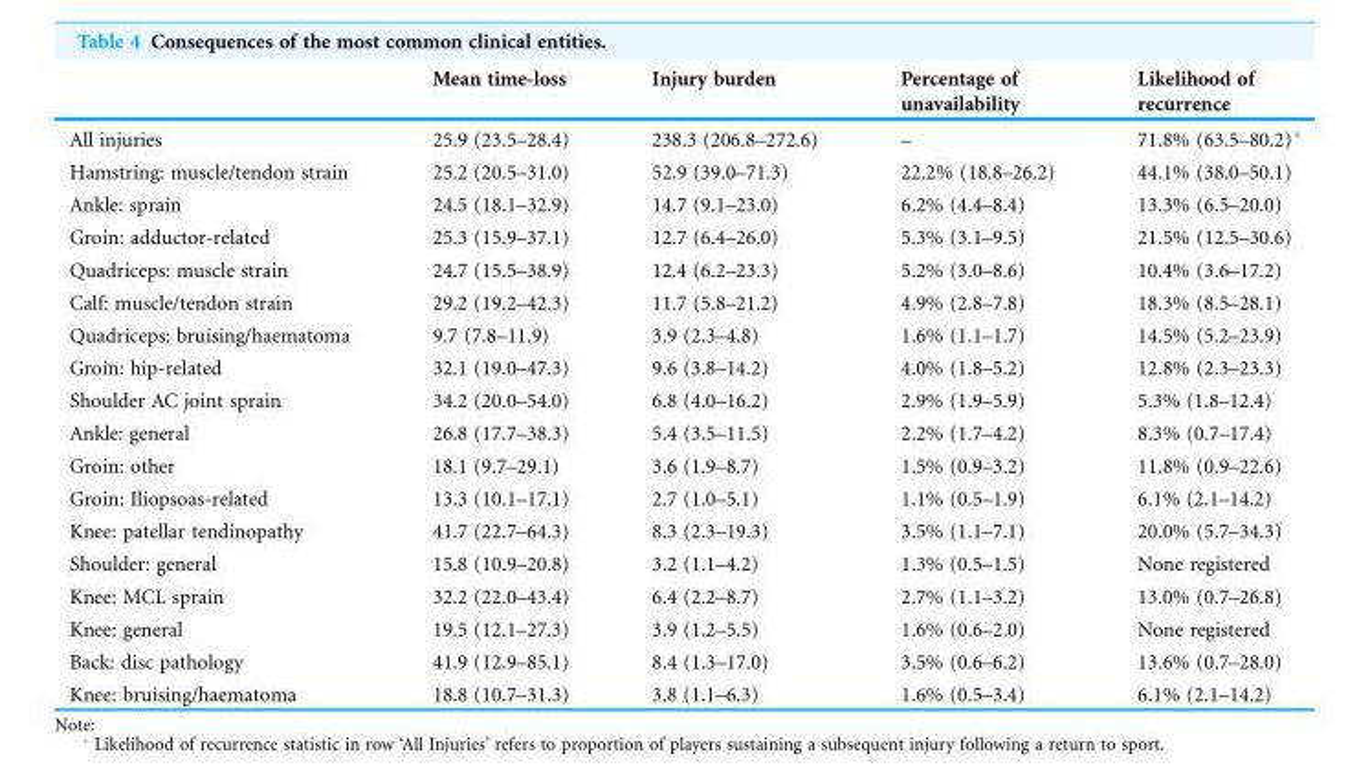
<table><thead><tr><td></td><td>Mean time-loss</td><td>Injury burden</td><td>Percentage of unavailability</td><td>Likelihood of recurrence</td></tr></thead><tbody><tr><td>All injuries</td><td>25.9 (23.5–28.4)</td><td>238.3 (206.8–272.6)</td><td>–</td><td>71.8% (63.5–80.2)*</td></tr><tr><td>Hamstring: muscle/tendon strain</td><td>25.2 (20.5–31.0)</td><td>52.9 (39.0–71.3)</td><td>22.2% (18.8–26.2)</td><td>44.1% (38.0–50.1)</td></tr><tr><td>Ankle: sprain</td><td>24.5 (18.1–32.9)</td><td>14.7 (9.1–23.0)</td><td>6.2% (4.4–8.4)</td><td>13.3% (6.5–20.0)</td></tr><tr><td>Groin: adductor-related</td><td>25.3 (15.9–37.1)</td><td>12.7 (6.4–26.0)</td><td>5.3% (3.1–9.5)</td><td>21.5% (12.5–30.6)</td></tr><tr><td>Quadriceps: muscle strain</td><td>24.7 (15.5–38.9)</td><td>12.4 (6.2–23.3)</td><td>5.2% (3.0–8.6)</td><td>10.4% (3.6–17.2)</td></tr><tr><td>Calf: muscle/tendon strain</td><td>29.2 (19.2–42.3)</td><td>11.7 (5.8–21.2)</td><td>4.9% (2.8–7.8)</td><td>18.3% (8.5–28.1)</td></tr><tr><td>Quadriceps: bruising/haematoma</td><td>9.7 (7.8–11.9)</td><td>3.9 (2.3–4.8)</td><td>1.6% (1.1–1.7)</td><td>14.5% (5.2–23.9)</td></tr><tr><td>Groin: hip-related</td><td>32.1 (19.0–47.3)</td><td>9.6 (3.8–14.2)</td><td>4.0% (1.8–5.2)</td><td>12.8% (2.3–23.3)</td></tr><tr><td>Shoulder AC joint sprain</td><td>34.2 (20.0–54.0)</td><td>6.8 (4.0–16.2)</td><td>2.9% (1.9–5.9)</td><td>5.3% (1.8–12.4)</td></tr><tr><td>Ankle: general</td><td>26.8 (17.7–38.3)</td><td>5.4 (3.5–11.5)</td><td>2.2% (1.7–4.2)</td><td>8.3% (0.7–17.4)</td></tr><tr><td>Groin: other</td><td>18.1 (9.7–29.1)</td><td>3.6 (1.9–8.7)</td><td>1.5% (0.9–3.2)</td><td>11.8% (0.9–22.6)</td></tr><tr><td>Groin: Iliopsoas-related</td><td>13.3 (10.1–17.1)</td><td>2.7 (1.0–5.1)</td><td>1.1% (0.5–1.9)</td><td>6.1% (2.1–14.2)</td></tr><tr><td>Knee: patellar tendinopathy</td><td>41.7 (22.7–64.3)</td><td>8.3 (2.3–19.3)</td><td>3.5% (1.1–7.1)</td><td>20.0% (5.7–34.3)</td></tr><tr><td>Shoulder: general</td><td>15.8 (10.9–20.8)</td><td>3.2 (1.1–4.2)</td><td>1.3% (0.5–1.5)</td><td>None registered</td></tr><tr><td>Knee: MCL sprain</td><td>32.2 (22.0–43.4)</td><td>6.4 (2.2–8.7)</td><td>2.7% (1.1–3.2)</td><td>13.0% (0.7–26.8)</td></tr><tr><td>Knee: general</td><td>19.5 (12.1–27.3)</td><td>3.9 (1.2–5.5)</td><td>1.6% (0.6–2.0)</td><td>None registered</td></tr><tr><td>Back: disc pathology</td><td>41.9 (12.9–85.1)</td><td>8.4 (1.3–17.0)</td><td>3.5% (0.6–6.2)</td><td>13.6% (0.7–28.0)</td></tr><tr><td>Knee: bruising/haematoma</td><td>18.8 (10.7–31.3)</td><td>3.8 (1.1–6.3)</td><td>1.6% (0.5–3.4)</td><td>6.1% (2.1–14.2)</td></tr></tbody></table>